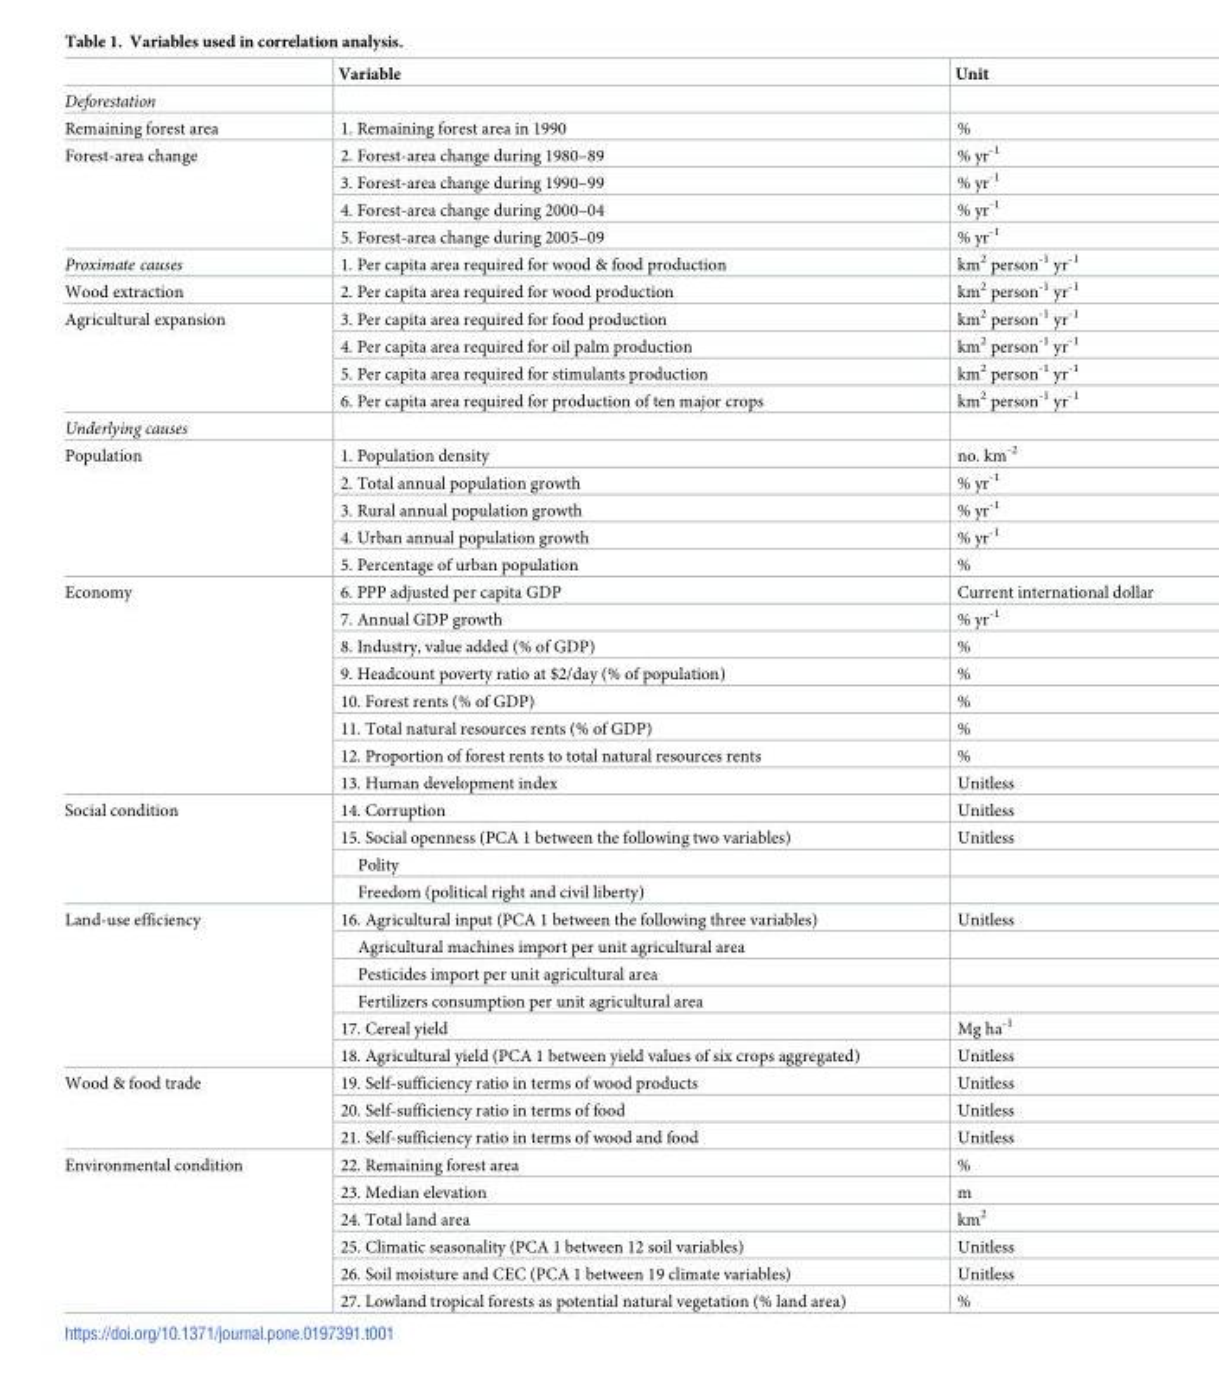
<table><thead><tr><td></td><td>Variable</td><td>Unit</td></tr></thead><tbody><tr><td colspan="3">Deforestation</td></tr><tr><td>Remaining forest area</td><td>1. Remaining forest area in 1990</td><td>%</td></tr><tr><td rowspan="4">Forest-area change</td><td>2. Forest-area change during 1980–89</td><td>% yr<sup>-1</sup></td></tr><tr><td>3. Forest-area change during 1990–99</td><td>% yr<sup>-1</sup></td></tr><tr><td>4. Forest-area change during 2000–04</td><td>% yr<sup>-1</sup></td></tr><tr><td>5. Forest-area change during 2005–09</td><td>% yr<sup>-1</sup></td></tr><tr><td>Proximate causes</td><td>1. Per capita area required for wood &amp; food production</td><td>km<sup>2</sup> person<sup>-1</sup> yr<sup>-1</sup></td></tr><tr><td>Wood extraction</td><td>2. Per capita area required for wood production</td><td>km<sup>2</sup> person<sup>-1</sup> yr<sup>-1</sup></td></tr><tr><td rowspan="4">Agricultural expansion</td><td>3. Per capita area required for food production</td><td>km<sup>2</sup> person<sup>-1</sup> yr<sup>-1</sup></td></tr><tr><td>4. Per capita area required for oil palm production</td><td>km<sup>2</sup> person<sup>-1</sup> yr<sup>-1</sup></td></tr><tr><td>5. Per capita area required for stimulants production</td><td>km<sup>2</sup> person<sup>-1</sup> yr<sup>-1</sup></td></tr><tr><td>6. Per capita area required for production of ten major crops</td><td>km<sup>2</sup> person<sup>-1</sup> yr<sup>-1</sup></td></tr><tr><td colspan="3">Underlying causes</td></tr><tr><td rowspan="5">Population</td><td>1. Population density</td><td>no. km<sup>-2</sup></td></tr><tr><td>2. Total annual population growth</td><td>% yr<sup>-1</sup></td></tr><tr><td>3. Rural annual population growth</td><td>% yr<sup>-1</sup></td></tr><tr><td>4. Urban annual population growth</td><td>% yr<sup>-1</sup></td></tr><tr><td>5. Percentage of urban population</td><td>%</td></tr><tr><td rowspan="8">Economy</td><td>6. PPP adjusted per capita GDP</td><td>Current international dollar</td></tr><tr><td>7. Annual GDP growth</td><td>% yr<sup>-1</sup></td></tr><tr><td>8. Industry, value added (% of GDP)</td><td>%</td></tr><tr><td>9. Headcount poverty ratio at $2/day (% of population)</td><td>%</td></tr><tr><td>10. Forest rents (% of GDP)</td><td>%</td></tr><tr><td>11. Total natural resources rents (% of GDP)</td><td>%</td></tr><tr><td>12. Proportion of forest rents to total natural resources rents</td><td>%</td></tr><tr><td>13. Human development index</td><td>Unitless</td></tr><tr><td rowspan="4">Social condition</td><td>14. Corruption</td><td>Unitless</td></tr><tr><td>15. Social openness (PCA 1 between the following two variables)</td><td>Unitless</td></tr><tr><td>Polity</td><td></td></tr><tr><td>Freedom (political right and civil liberty)</td><td></td></tr><tr><td rowspan="6">Land-use efficiency</td><td>16. Agricultural input (PCA 1 between the following three variables)</td><td>Unitless</td></tr><tr><td>Agricultural machines import per unit agricultural area</td><td></td></tr><tr><td>Pesticides import per unit agricultural area</td><td></td></tr><tr><td>Fertilizers consumption per unit agricultural area</td><td></td></tr><tr><td>17. Cereal yield</td><td>Mg ha<sup>-1</sup></td></tr><tr><td>18. Agricultural yield (PCA 1 between yield values of six crops aggregated)</td><td>Unitless</td></tr><tr><td rowspan="3">Wood &amp; food trade</td><td>19. Self-sufficiency ratio in terms of wood products</td><td>Unitless</td></tr><tr><td>20. Self-sufficiency ratio in terms of food</td><td>Unitless</td></tr><tr><td>21. Self-sufficiency ratio in terms of wood and food</td><td>Unitless</td></tr><tr><td rowspan="6">Environmental condition</td><td>22. Remaining forest area</td><td>%</td></tr><tr><td>23. Median elevation</td><td>m</td></tr><tr><td>24. Total land area</td><td>km<sup>2</sup></td></tr><tr><td>25. Climatic seasonality (PCA 1 between 12 soil variables)</td><td>Unitless</td></tr><tr><td>26. Soil moisture and CEC (PCA 1 between 19 climate variables)</td><td>Unitless</td></tr><tr><td>27. Lowland tropical forests as potential natural vegetation (% land area)</td><td>%</td></tr></tbody></table>